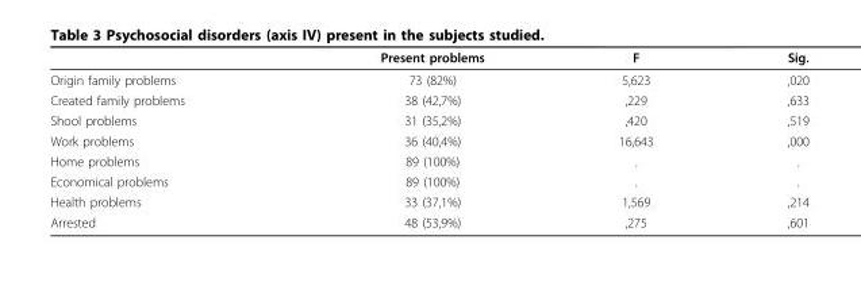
<table><thead><tr><td></td><td>Present problems</td><td>F</td><td>Sig.</td></tr></thead><tbody><tr><td>Origin family problems</td><td>73 (82%)</td><td>5,623</td><td>,020</td></tr><tr><td>Created family problems</td><td>38 (42,7%)</td><td>,229</td><td>,633</td></tr><tr><td>Shool problems</td><td>31 (35,2%)</td><td>,420</td><td>,519</td></tr><tr><td>Work problems</td><td>36 (40,4%)</td><td>16,643</td><td>,000</td></tr><tr><td>Home problems</td><td>89 (100%)</td><td>.</td><td>.</td></tr><tr><td>Economical problems</td><td>89 (100%)</td><td>.</td><td>.</td></tr><tr><td>Health problems</td><td>33 (37,1%)</td><td>1,569</td><td>,214</td></tr><tr><td>Arrested</td><td>48 (53,9%)</td><td>,275</td><td>,601</td></tr></tbody></table>